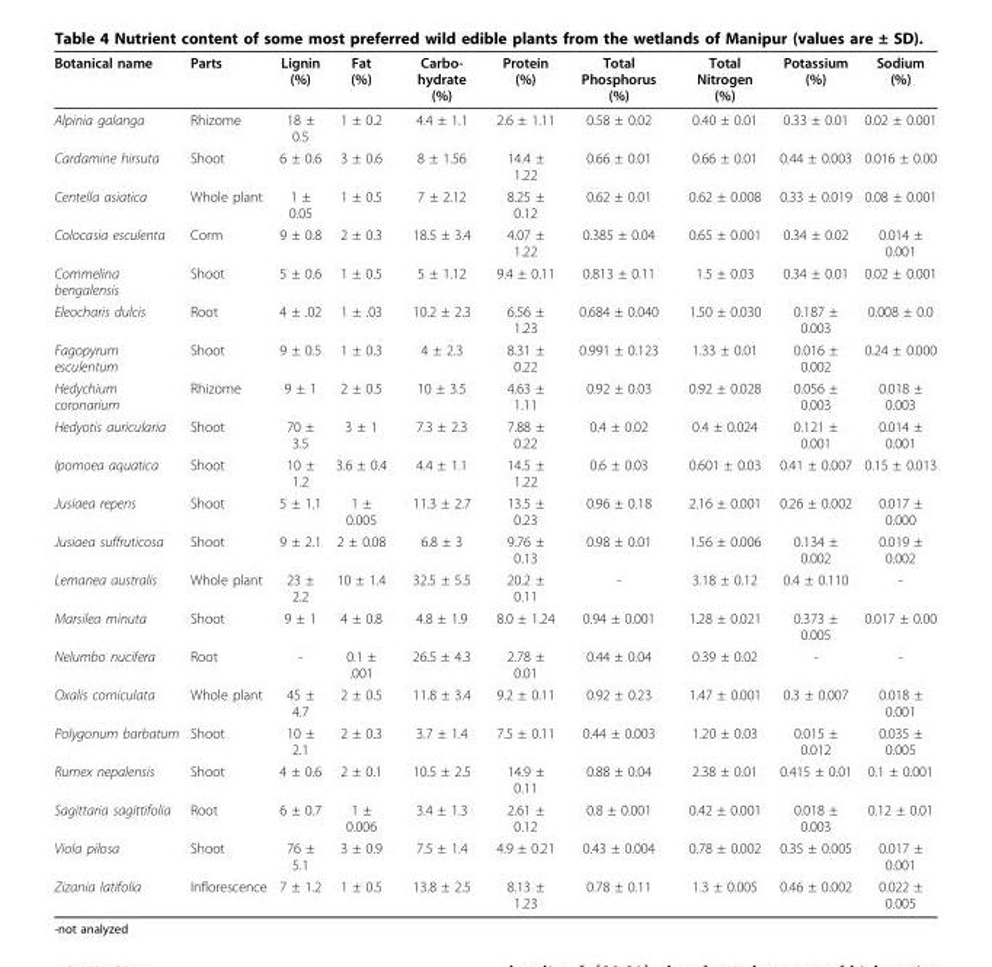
<table><thead><tr><td>Botanical name</td><td>Parts</td><td>Lignin (%)</td><td>Fat (%)</td><td>Carbo- hydrate (%)</td><td>Protein (%)</td><td>Total Phosphorus (%)</td><td>Total Nitrogen (%)</td><td>Potassium (%)</td><td>Sodium (%)</td></tr></thead><tbody><tr><td>Alpinia galanga</td><td>Rhizome</td><td>18 ± 0.5</td><td>1 ± 0.2</td><td>4.4 ± 1.1</td><td>2.6 ± 1.11</td><td>0.58 ± 0.02</td><td>0.40 ± 0.01</td><td>0.33 ± 0.01</td><td>0.02 ± 0.001</td></tr><tr><td>Cardamine hirsuta</td><td>Shoot</td><td>6 ± 0.6</td><td>3 ± 0.6</td><td>8 ± 1.56</td><td>14.4 ± 1.22</td><td>0.66 ± 0.01</td><td>0.66 ± 0.01</td><td>0.44 ± 0.003</td><td>0.016 ± 0.00</td></tr><tr><td>Centella asiatica</td><td>Whole plant</td><td>1 ± 0.05</td><td>1 ± 0.5</td><td>7 ± 2.12</td><td>8.25 ± 0.12</td><td>0.62 ± 0.01</td><td>0.62 ± 0.008</td><td>0.33 ± 0.019</td><td>0.08 ± 0.001</td></tr><tr><td>Colocasia esculenta</td><td>Corm</td><td>9 ± 0.8</td><td>2 ± 0.3</td><td>18.5 ± 3.4</td><td>4.07 ± 1.22</td><td>0.385 ± 0.04</td><td>0.65 ± 0.001</td><td>0.34 ± 0.02</td><td>0.014 ± 0.001</td></tr><tr><td>Commelina bengalensis</td><td>Shoot</td><td>5 ± 0.6</td><td>1 ± 0.5</td><td>5 ± 1.12</td><td>9.4 ± 0.11</td><td>0.813 ± 0.11</td><td>1.5 ± 0.03</td><td>0.34 ± 0.01</td><td>0.02 ± 0.001</td></tr><tr><td>Eleocharis dulcis</td><td>Root</td><td>4 ± .02</td><td>1 ± .03</td><td>10.2 ± 2.3</td><td>6.56 ± 1.23</td><td>0.684 ± 0.040</td><td>1.50 ± 0.030</td><td>0.187 ± 0.003</td><td>0.008 ± 0.0</td></tr><tr><td>Fagopyrum esculentum</td><td>Shoot</td><td>9 ± 0.5</td><td>1 ± 0.3</td><td>4 ± 2.3</td><td>8.31 ± 0.22</td><td>0.991 ± 0.123</td><td>1.33 ± 0.01</td><td>0.016 ± 0.002</td><td>0.24 ± 0.000</td></tr><tr><td>Hedychium coronarium</td><td>Rhizome</td><td>9 ± 1</td><td>2 ± 0.5</td><td>10 ± 3.5</td><td>4.63 ± 1.11</td><td>0.92 ± 0.03</td><td>0.92 ± 0.028</td><td>0.056 ± 0.003</td><td>0.018 ± 0.003</td></tr><tr><td>Hedyotis auricularia</td><td>Shoot</td><td>70 ± 3.5</td><td>3 ± 1</td><td>7.3 ± 2.3</td><td>7.88 ± 0.22</td><td>0.4 ± 0.02</td><td>0.4 ± 0.024</td><td>0.121 ± 0.001</td><td>0.014 ± 0.001</td></tr><tr><td>Ipomoea aquatica</td><td>Shoot</td><td>10 ± 1.2</td><td>3.6 ± 0.4</td><td>4.4 ± 1.1</td><td>14.5 ± 1.22</td><td>0.6 ± 0.03</td><td>0.601 ± 0.03</td><td>0.41 ± 0.007</td><td>0.15 ± 0.013</td></tr><tr><td>Jusiaea repens</td><td>Shoot</td><td>5 ± 1.1</td><td>1 ± 0.005</td><td>11.3 ± 2.7</td><td>13.5 ± 0.23</td><td>0.96 ± 0.18</td><td>2.16 ± 0.001</td><td>0.26 ± 0.002</td><td>0.017 ± 0.000</td></tr><tr><td>Jusiaea suffruticosa</td><td>Shoot</td><td>9 ± 2.1</td><td>2 ± 0.08</td><td>6.8 ± 3</td><td>9.76 ± 0.13</td><td>0.98 ± 0.01</td><td>1.56 ± 0.006</td><td>0.134 ± 0.002</td><td>0.019 ± 0.002</td></tr><tr><td>Lemanea australis</td><td>Whole plant</td><td>23 ± 2.2</td><td>10 ± 1.4</td><td>32.5 ± 5.5</td><td>20.2 ± 0.11</td><td>-</td><td>3.18 ± 0.12</td><td>0.4 ± 0.110</td><td>-</td></tr><tr><td>Marsilea minuta</td><td>Shoot</td><td>9 ± 1</td><td>4 ± 0.8</td><td>4.8 ± 1.9</td><td>8.0 ± 1.24</td><td>0.94 ± 0.001</td><td>1.28 ± 0.021</td><td>0.373 ± 0.005</td><td>0.017 ± 0.00</td></tr><tr><td>Nelumbo nucifera</td><td>Root</td><td>-</td><td>0.1 ± .001</td><td>26.5 ± 4.3</td><td>2.78 ± 0.01</td><td>0.44 ± 0.04</td><td>0.39 ± 0.02</td><td>-</td><td>-</td></tr><tr><td>Oxalis corniculata</td><td>Whole plant</td><td>45 ± 4.7</td><td>2 ± 0.5</td><td>11.8 ± 3.4</td><td>9.2 ± 0.11</td><td>0.92 ± 0.23</td><td>1.47 ± 0.001</td><td>0.3 ± 0.007</td><td>0.018 ± 0.001</td></tr><tr><td>Polygonum barbatum</td><td>Shoot</td><td>10 ± 2.1</td><td>2 ± 0.3</td><td>3.7 ± 1.4</td><td>7.5 ± 0.11</td><td>0.44 ± 0.003</td><td>1.20 ± 0.03</td><td>0.015 ± 0.012</td><td>0.035 ± 0.005</td></tr><tr><td>Rumex nepalensis</td><td>Shoot</td><td>4 ± 0.6</td><td>2 ± 0.1</td><td>10.5 ± 2.5</td><td>14.9 ± 0.11</td><td>0.88 ± 0.04</td><td>2.38 ± 0.01</td><td>0.415 ± 0.01</td><td>0.1 ± 0.001</td></tr><tr><td>Sagittaria sagittifolia</td><td>Root</td><td>6 ± 0.7</td><td>1 ± 0.006</td><td>3.4 ± 1.3</td><td>2.61 ± 0.12</td><td>0.8 ± 0.001</td><td>0.42 ± 0.001</td><td>0.018 ± 0.003</td><td>0.12 ± 0.01</td></tr><tr><td>Viola pilosa</td><td>Shoot</td><td>76 ± 5.1</td><td>3 ± 0.9</td><td>7.5 ± 1.4</td><td>4.9 ± 0.21</td><td>0.43 ± 0.004</td><td>0.78 ± 0.002</td><td>0.35 ± 0.005</td><td>0.017 ± 0.001</td></tr><tr><td>Zizania latifolia</td><td>Inflorescence</td><td>7 ± 1.2</td><td>1 ± 0.5</td><td>13.8 ± 2.5</td><td>8.13 ± 1.23</td><td>0.78 ± 0.11</td><td>1.3 ± 0.005</td><td>0.46 ± 0.002</td><td>0.022 ± 0.005</td></tr></tbody></table>